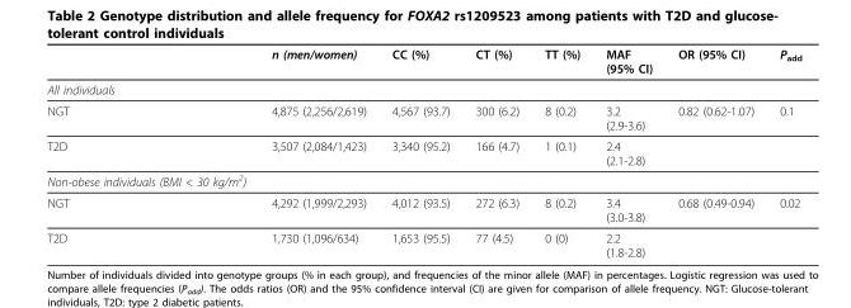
<table><thead><tr><td></td><td>n (men/women)</td><td>CC (%)</td><td>CT (%)</td><td>TT (%)</td><td>MAF (95% CI)</td><td>OR (95% CI)</td><td>P<sub>add</sub></td></tr></thead><tbody><tr><td colspan="8">All individuals</td></tr><tr><td>NGT</td><td>4,875 (2,256/2,619)</td><td>4,567 (93.7)</td><td>300 (6.2)</td><td>8 (0.2)</td><td>3.2 (2.9-3.6)</td><td>0.82 (0.62-1.07)</td><td>0.1</td></tr><tr><td>T2D</td><td>3,507 (2,084/1,423)</td><td>3,340 (95.2)</td><td>166 (4.7)</td><td>1 (0.1)</td><td>2.4 (2.1-2.8)</td><td></td><td></td></tr><tr><td colspan="8">Non-obese individuals (BMI &lt; 30 kg/m<sup>2</sup>)</td></tr><tr><td>NGT</td><td>4,292 (1,999/2,293)</td><td>4,012 (93.5)</td><td>272 (6.3)</td><td>8 (0.2)</td><td>3.4 (3.0-3.8)</td><td>0.68 (0.49-0.94)</td><td>0.02</td></tr><tr><td>T2D</td><td>1,730 (1,096/634)</td><td>1,653 (95.5)</td><td>77 (4.5)</td><td>0 (0)</td><td>2.2 (1.8-2.8)</td><td></td><td></td></tr></tbody></table>